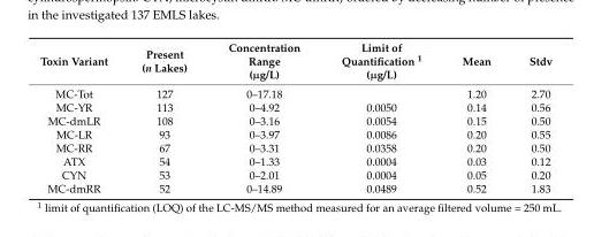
<table><thead><tr><td>Toxin Variant</td><td>Present (n Lakes)</td><td>Concentration Range (µg/L)</td><td>Limit of Quantification <sup>1</sup> (µg/L)</td><td>Mean</td><td>Stdv</td></tr></thead><tbody><tr><td>MC-Tot</td><td>127</td><td>0–17.18</td><td></td><td>1.20</td><td>2.70</td></tr><tr><td>MC-YR</td><td>113</td><td>0–4.92</td><td>0.0050</td><td>0.14</td><td>0.56</td></tr><tr><td>MC-dmLR</td><td>108</td><td>0–3.16</td><td>0.0054</td><td>0.15</td><td>0.50</td></tr><tr><td>MC-LR</td><td>93</td><td>0–3.97</td><td>0.0086</td><td>0.20</td><td>0.55</td></tr><tr><td>MC-RR</td><td>67</td><td>0–3.31</td><td>0.0358</td><td>0.20</td><td>0.50</td></tr><tr><td>ATX</td><td>54</td><td>0–1.33</td><td>0.0004</td><td>0.03</td><td>0.12</td></tr><tr><td>CYN</td><td>53</td><td>0–2.01</td><td>0.0004</td><td>0.05</td><td>0.20</td></tr><tr><td>MC-dmRR</td><td>52</td><td>0–14.89</td><td>0.0489</td><td>0.52</td><td>1.83</td></tr></tbody></table>